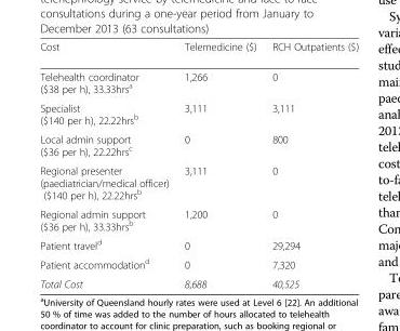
<table><thead><tr><td>Cost</td><td>Telemedicine ($)</td><td>RCH Outpatients ($)</td></tr></thead><tbody><tr><td>Telehealth coordinator ($38 per h), 33.33hrs<sup>a</sup></td><td>1,266</td><td>0</td></tr><tr><td>Specialist ($140 per h), 22.22hrs<sup>b</sup></td><td>3,111</td><td>3,111</td></tr><tr><td>Local admin support ($36 per h), 22.22hrs<sup>c</sup></td><td>0</td><td>800</td></tr><tr><td>Regional presenter (paediatrician/medical officer) ($140 per h), 22.22hrs<sup>b</sup></td><td>3,111</td><td>0</td></tr><tr><td>Regional admin support ($36 per h), 33.33hrs<sup>b</sup></td><td>1,200</td><td>0</td></tr><tr><td>Patient travel<sup>d</sup></td><td>0</td><td>29,294</td></tr><tr><td>Patient accommodation<sup>d</sup></td><td>0</td><td>7,320</td></tr><tr><td>Total Cost</td><td>8,688</td><td>40,525</td></tr></tbody></table>